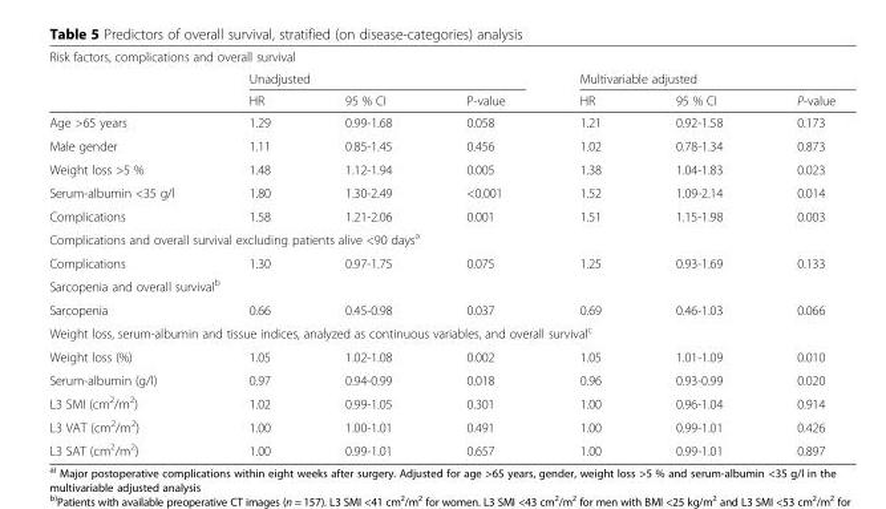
<table><thead><tr><td colspan="7">Risk factors, complications and overall survival</td></tr><tr><td rowspan="2"></td><td colspan="3">Unadjusted</td><td colspan="3">Multivariable adjusted</td></tr><tr><td>HR</td><td>95 % CI</td><td>P-value</td><td>HR</td><td>95 % CI</td><td>P-value</td></tr></thead><tbody><tr><td>Age &gt;65 years</td><td>1.29</td><td>0.99-1.68</td><td>0.058</td><td>1.21</td><td>0.92-1.58</td><td>0.173</td></tr><tr><td>Male gender</td><td>1.11</td><td>0.85-1.45</td><td>0.456</td><td>1.02</td><td>0.78-1.34</td><td>0.873</td></tr><tr><td>Weight loss &gt;5 %</td><td>1.48</td><td>1.12-1.94</td><td>0.005</td><td>1.38</td><td>1.04-1.83</td><td>0.023</td></tr><tr><td>Serum-albumin &lt;35 g/l</td><td>1.80</td><td>1.30-2.49</td><td>&lt;0.001</td><td>1.52</td><td>1.09-2.14</td><td>0.014</td></tr><tr><td>Complications</td><td>1.58</td><td>1.21-2.06</td><td>0.001</td><td>1.51</td><td>1.15-1.98</td><td>0.003</td></tr><tr><td colspan="7">Complications and overall survival excluding patients alive &lt;90 days<sup>a</sup></td></tr><tr><td>Complications</td><td>1.30</td><td>0.97-1.75</td><td>0.075</td><td>1.25</td><td>0.93-1.69</td><td>0.133</td></tr><tr><td colspan="7">Sarcopenia and overall survival<sup>b</sup></td></tr><tr><td>Sarcopenia</td><td>0.66</td><td>0.45-0.98</td><td>0.037</td><td>0.69</td><td>0.46-1.03</td><td>0.066</td></tr><tr><td colspan="7">Weight loss, serum-albumin and tissue indices, analyzed as continuous variables, and overall survival<sup>c</sup></td></tr><tr><td>Weight loss (%)</td><td>1.05</td><td>1.02-1.08</td><td>0.002</td><td>1.05</td><td>1.01-1.09</td><td>0.010</td></tr><tr><td>Serum-albumin (g/l)</td><td>0.97</td><td>0.94-0.99</td><td>0.018</td><td>0.96</td><td>0.93-0.99</td><td>0.020</td></tr><tr><td>L3 SMI (cm<sup>2</sup>/m<sup>2</sup>)</td><td>1.02</td><td>0.99-1.05</td><td>0.301</td><td>1.00</td><td>0.96-1.04</td><td>0.914</td></tr><tr><td>L3 VAT (cm<sup>2</sup>/m<sup>2</sup>)</td><td>1.00</td><td>1.00-1.01</td><td>0.491</td><td>1.00</td><td>0.99-1.01</td><td>0.426</td></tr><tr><td>L3 SAT (cm<sup>2</sup>/m<sup>2</sup>)</td><td>1.00</td><td>0.99-1.01</td><td>0.657</td><td>1.00</td><td>0.99-1.01</td><td>0.897</td></tr></tbody></table>